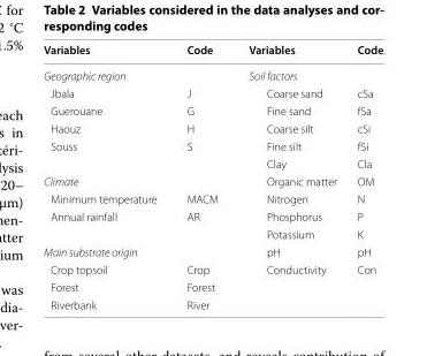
<table><thead><tr><td>Variables</td><td>Code</td><td>Variables</td><td>Code</td></tr></thead><tbody><tr><td colspan="2">Geographic region</td><td colspan="2">Soil factors</td></tr><tr><td>Jbala</td><td>J</td><td>Coarse sand</td><td>cSa</td></tr><tr><td>Guerouane</td><td>G</td><td>Fine sand</td><td>fSa</td></tr><tr><td>Haouz</td><td>H</td><td>Coarse silt</td><td>cSi</td></tr><tr><td rowspan="2">Souss</td><td>S</td><td>Fine silt</td><td>fSi</td></tr><tr><td></td><td>Clay</td><td>Cla</td></tr><tr><td colspan="2">Climate</td><td>Organic matter</td><td>OM</td></tr><tr><td>Minimum temperature</td><td>MACM</td><td>Nitrogen</td><td>N</td></tr><tr><td rowspan="2">Annual rainfall</td><td>AR</td><td>Phosphorus</td><td>P</td></tr><tr><td></td><td>Potassium</td><td>K</td></tr><tr><td colspan="2">Main substrate origin</td><td>pH</td><td>pH</td></tr><tr><td>Crop topsoil</td><td>Crop</td><td>Conductivity</td><td>Con</td></tr><tr><td>Forest</td><td>Forest</td><td></td><td></td></tr><tr><td>Riverbank</td><td>River</td><td></td><td></td></tr></tbody></table>